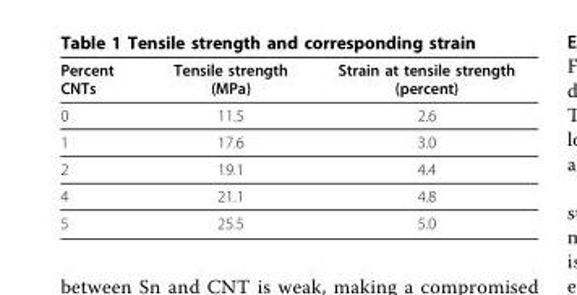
<table><thead><tr><td>Percent CNTs</td><td>Tensile strength (MPa)</td><td>Strain at tensile strength (percent)</td></tr></thead><tbody><tr><td>0</td><td>11.5</td><td>2.6</td></tr><tr><td>1</td><td>17.6</td><td>3.0</td></tr><tr><td>2</td><td>19.1</td><td>4.4</td></tr><tr><td>4</td><td>21.1</td><td>4.8</td></tr><tr><td>5</td><td>25.5</td><td>5.0</td></tr></tbody></table>